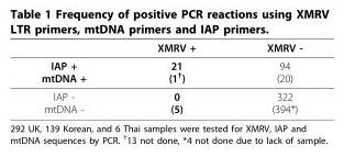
<table><thead><tr><td></td><td>XMRV +</td><td>XMRV -</td></tr></thead><tbody><tr><td>IAP + mtDNA +</td><td>21 (1<sup>†</sup>)</td><td>94 (20)</td></tr><tr><td>IAP - mtDNA -</td><td>0 (5)</td><td>322 (394*)</td></tr></tbody></table>